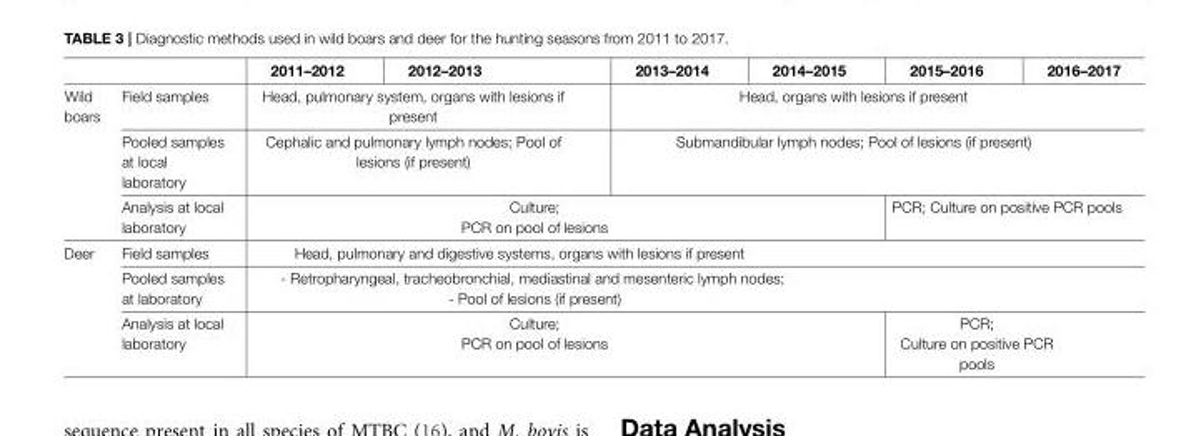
<table><thead><tr><td></td><td></td><td>2011–2012</td><td>2012–2013</td><td>2013–2014</td><td>2014–2015</td><td>2015–2016</td><td>2016–2017</td></tr></thead><tbody><tr><td rowspan="3">Wild boars</td><td>Field samples</td><td colspan="2">Head, pulmonary system, organs with lesions if present</td><td colspan="4">Head, organs with lesions if present</td></tr><tr><td>Pooled samples at local laboratory</td><td colspan="2">Cephalic and pulmonary lymph nodes; Pool of lesions (if present)</td><td colspan="4">Submandibular lymph nodes; Pool of lesions (if present)</td></tr><tr><td>Analysis at local laboratory</td><td colspan="4">Culture; PCR on pool of lesions</td><td colspan="2">PCR; Culture on positive PCR pools</td></tr><tr><td rowspan="3">Deer</td><td>Field samples</td><td colspan="6">Head, pulmonary and digestive systems, organs with lesions if present</td></tr><tr><td>Pooled samples at laboratory</td><td colspan="6">- Retropharyngeal, tracheobronchial, mediastinal and mesenteric lymph nodes; - Pool of lesions (if present)</td></tr><tr><td>Analysis at local laboratory</td><td colspan="4">Culture; PCR on pool of lesions</td><td colspan="2">PCR; Culture on positive PCR pools</td></tr></tbody></table>